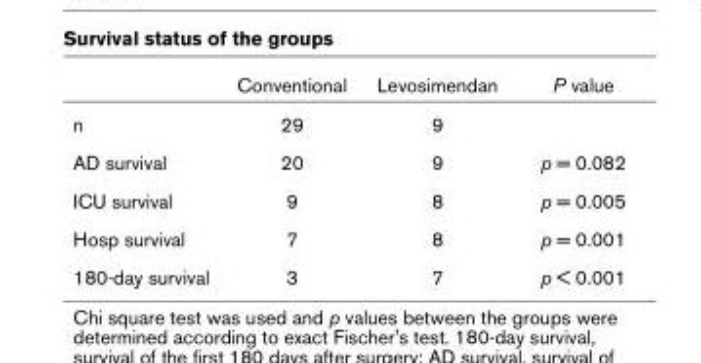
<table><thead><tr><td></td><td>Conventional</td><td>Levosimendan</td><td>P value</td></tr></thead><tbody><tr><td>n</td><td>29</td><td>9</td><td></td></tr><tr><td>AD survival</td><td>20</td><td>9</td><td>p = 0.082</td></tr><tr><td>ICU survival</td><td>9</td><td>8</td><td>p = 0.005</td></tr><tr><td>Hosp survival</td><td>7</td><td>8</td><td>p = 0.001</td></tr><tr><td>180-day survival</td><td>3</td><td>7</td><td>p &lt; 0.001</td></tr></tbody></table>